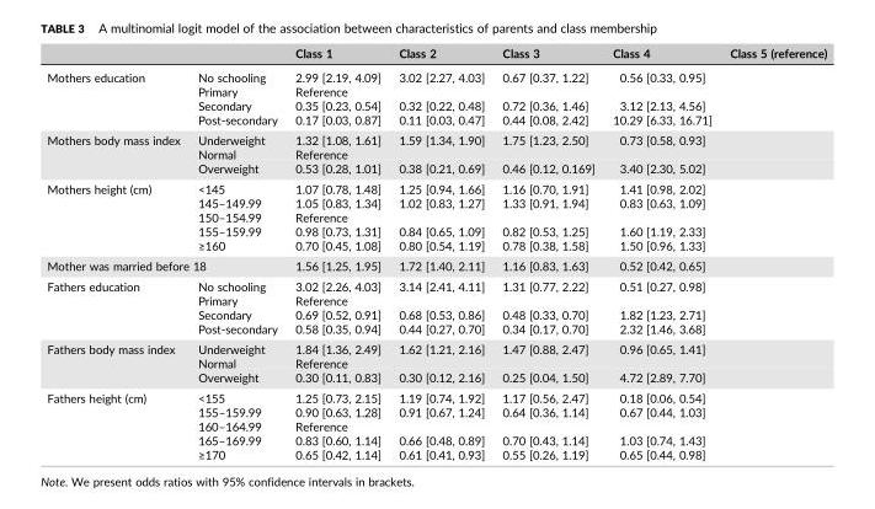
<table><thead><tr><td></td><td></td><td>Class 1</td><td>Class 2</td><td>Class 3</td><td>Class 4</td><td>Class 5 (reference)</td></tr></thead><tbody><tr><td rowspan="4">Mothers education</td><td>No schooling</td><td>2.99 [2.19, 4.09]</td><td>3.02 [2.27, 4.03]</td><td>0.67 [0.37, 1.22]</td><td>0.56 [0.33, 0.95]</td><td></td></tr><tr><td>Primary</td><td colspan="5">Reference</td></tr><tr><td>Secondary</td><td>0.35 [0.23, 0.54]</td><td>0.32 [0.22, 0.48]</td><td>0.72 [0.36, 1.46]</td><td>3.12 [2.13, 4.56]</td><td></td></tr><tr><td>Post‐secondary</td><td>0.17 [0.03, 0.87]</td><td>0.11 [0.03, 0.47]</td><td>0.44 [0.08, 2.42]</td><td>10.29 [6.33, 16.71]</td><td></td></tr><tr><td rowspan="3">Mothers body mass index</td><td>Underweight</td><td>1.32 [1.08, 1.61]</td><td>1.59 [1.34, 1.90]</td><td>1.75 [1.23, 2.50]</td><td>0.73 [0.58, 0.93]</td><td></td></tr><tr><td>Normal</td><td colspan="5">Reference</td></tr><tr><td>Overweight</td><td>0.53 [0.28, 1.01]</td><td>0.38 [0.21, 0.69]</td><td>0.46 [0.12, 0.169]</td><td>3.40 [2.30, 5.02]</td><td></td></tr><tr><td rowspan="5">Mothers height (cm)</td><td>&lt;145</td><td>1.07 [0.78, 1.48]</td><td>1.25 [0.94, 1.66]</td><td>1.16 [0.70, 1.91]</td><td>1.41 [0.98, 2.02]</td><td></td></tr><tr><td>145–149.99</td><td>1.05 [0.83, 1.34]</td><td>1.02 [0.83, 1.27]</td><td>1.33 [0.91, 1.94]</td><td>0.83 [0.63, 1.09]</td><td></td></tr><tr><td>150–154.99</td><td colspan="5">Reference</td></tr><tr><td>155–159.99</td><td>0.98 [0.73, 1.31]</td><td>0.84 [0.65, 1.09]</td><td>0.82 [0.53, 1.25]</td><td>1.60 [1.19, 2.33]</td><td></td></tr><tr><td>≥160</td><td>0.70 [0.45, 1.08]</td><td>0.80 [0.54, 1.19]</td><td>0.78 [0.38, 1.58]</td><td>1.50 [0.96, 1.33]</td><td></td></tr><tr><td colspan="2">Mother was married before 18</td><td>1.56 [1.25, 1.95]</td><td>1.72 [1.40, 2.11]</td><td>1.16 [0.83, 1.63]</td><td>0.52 [0.42, 0.65]</td><td></td></tr><tr><td rowspan="4">Fathers education</td><td>No schooling</td><td>3.02 [2.26, 4.03]</td><td>3.14 [2.41, 4.11]</td><td>1.31 [0.77, 2.22]</td><td>0.51 [0.27, 0.98]</td><td></td></tr><tr><td>Primary</td><td colspan="5">Reference</td></tr><tr><td>Secondary</td><td>0.69 [0.52, 0.91]</td><td>0.68 [0.53, 0.86]</td><td>0.48 [0.33, 0.70]</td><td>1.82 [1.23, 2.71]</td><td></td></tr><tr><td>Post‐secondary</td><td>0.58 [0.35, 0.94]</td><td>0.44 [0.27, 0.70]</td><td>0.34 [0.17, 0.70]</td><td>2.32 [1.46, 3.68]</td><td></td></tr><tr><td rowspan="3">Fathers body mass index</td><td>Underweight</td><td>1.84 [1.36, 2.49]</td><td>1.62 [1.21, 2.16]</td><td>1.47 [0.88, 2.47]</td><td>0.96 [0.65, 1.41]</td><td></td></tr><tr><td>Normal</td><td colspan="5">Reference</td></tr><tr><td>Overweight</td><td>0.30 [0.11, 0.83]</td><td>0.30 [0.12, 2.16]</td><td>0.25 [0.04, 1.50]</td><td>4.72 [2.89, 7.70]</td><td></td></tr><tr><td rowspan="5">Fathers height (cm)</td><td>&lt;155</td><td>1.25 [0.73, 2.15]</td><td>1.19 [0.74, 1.92]</td><td>1.17 [0.56, 2.47]</td><td>0.18 [0.06, 0.54]</td><td></td></tr><tr><td>155–159.99</td><td>0.90 [0.63, 1.28]</td><td>0.91 [0.67, 1.24]</td><td>0.64 [0.36, 1.14]</td><td>0.67 [0.44, 1.03]</td><td></td></tr><tr><td>160–164.99</td><td colspan="5">Reference</td></tr><tr><td>165–169.99</td><td>0.83 [0.60, 1.14]</td><td>0.66 [0.48, 0.89]</td><td>0.70 [0.43, 1.14]</td><td>1.03 [0.74, 1.43]</td><td></td></tr><tr><td>≥170</td><td>0.65 [0.42, 1.14]</td><td>0.61 [0.41, 0.93]</td><td>0.55 [0.26, 1.19]</td><td>0.65 [0.44, 0.98]</td><td></td></tr></tbody></table>